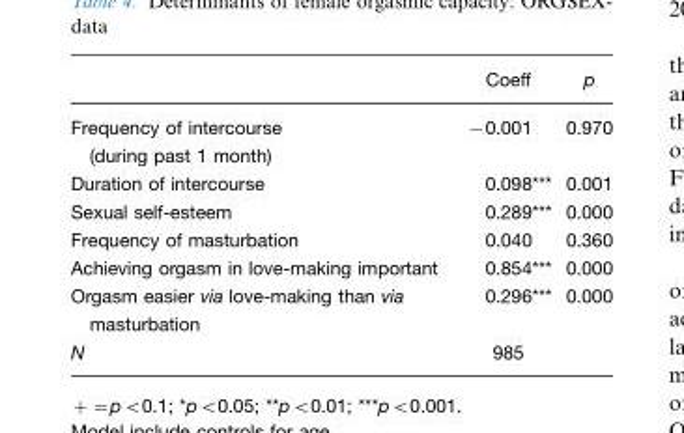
<table><thead><tr><td></td><td>Coeff</td><td>p</td></tr></thead><tbody><tr><td>Frequency of intercourse (during past 1 month)</td><td>−0.001</td><td>0.970</td></tr><tr><td>Duration of intercourse</td><td>0.098***</td><td>0.001</td></tr><tr><td>Sexual self-esteem</td><td>0.289***</td><td>0.000</td></tr><tr><td>Frequency of masturbation</td><td>0.040</td><td>0.360</td></tr><tr><td>Achieving orgasm in love-making important</td><td>0.854***</td><td>0.000</td></tr><tr><td>Orgasm easier via love-making than via masturbation</td><td>0.296***</td><td>0.000</td></tr><tr><td>N</td><td>985</td><td></td></tr></tbody></table>